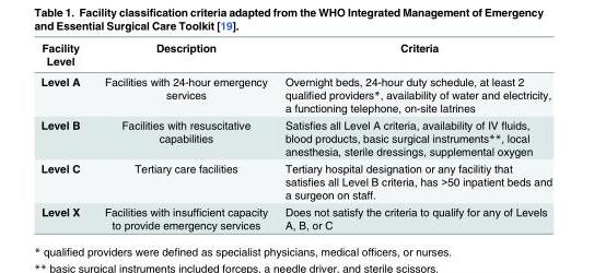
<table><thead><tr><td>Facility Level</td><td>Description</td><td>Criteria</td></tr></thead><tbody><tr><td>Level A</td><td>Facilities with 24-hour emergency services</td><td>Overnight beds, 24-hour duty schedule, at least 2 qualified providers*, availability of water and electricity, a functioning telephone, on-site latrines</td></tr><tr><td>Level B</td><td>Facilities with resuscitative capabilities</td><td>Satisfies all Level A criteria, availability of IV fluids, blood products, basic surgical instruments**, local anesthesia, sterile dressings, supplemental oxygen</td></tr><tr><td>Level C</td><td>Tertiary care facilities</td><td>Tertiary hospital designation or any facilitiy that satisfies all Level B criteria, has &gt;50 inpatient beds and a surgeon on staff.</td></tr><tr><td>Level X</td><td>Facilities with insufficient capacity to provide emergency services</td><td>Does not satisfy the criteria to qualify for any of Levels A, B, or C</td></tr></tbody></table>